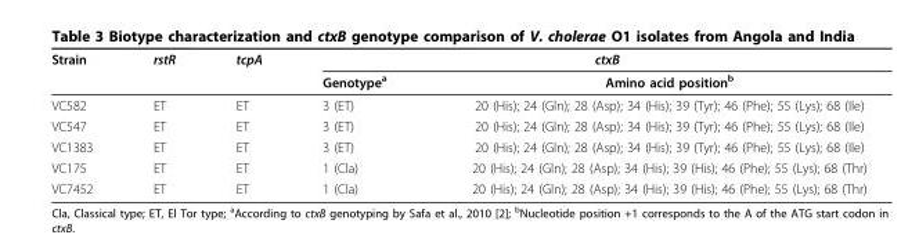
<table><thead><tr><td rowspan="2">Strain</td><td rowspan="2">rstR</td><td rowspan="2">tcpA</td><td colspan="2">ctxB</td></tr><tr><td>Genotype<sup>a</sup></td><td>Amino acid position<sup>b</sup></td></tr></thead><tbody><tr><td>VC582</td><td>ET</td><td>ET</td><td>3 (ET)</td><td>20 (His); 24 (Gln); 28 (Asp); 34 (His); 39 (Tyr); 46 (Phe); 55 (Lys); 68 (Ile)</td></tr><tr><td>VC547</td><td>ET</td><td>ET</td><td>3 (ET)</td><td>20 (His); 24 (Gln); 28 (Asp); 34 (His); 39 (Tyr); 46 (Phe); 55 (Lys); 68 (Ile)</td></tr><tr><td>VC1383</td><td>ET</td><td>ET</td><td>3 (ET)</td><td>20 (His); 24 (Gln); 28 (Asp); 34 (His); 39 (Tyr); 46 (Phe); 55 (Lys); 68 (Ile)</td></tr><tr><td>VC175</td><td>ET</td><td>ET</td><td>1 (Cla)</td><td>20 (His); 24 (Gln); 28 (Asp); 34 (His); 39 (His); 46 (Phe); 55 (Lys); 68 (Thr)</td></tr><tr><td>VC7452</td><td>ET</td><td>ET</td><td>1 (Cla)</td><td>20 (His); 24 (Gln); 28 (Asp); 34 (His); 39 (His); 46 (Phe); 55 (Lys); 68 (Thr)</td></tr></tbody></table>